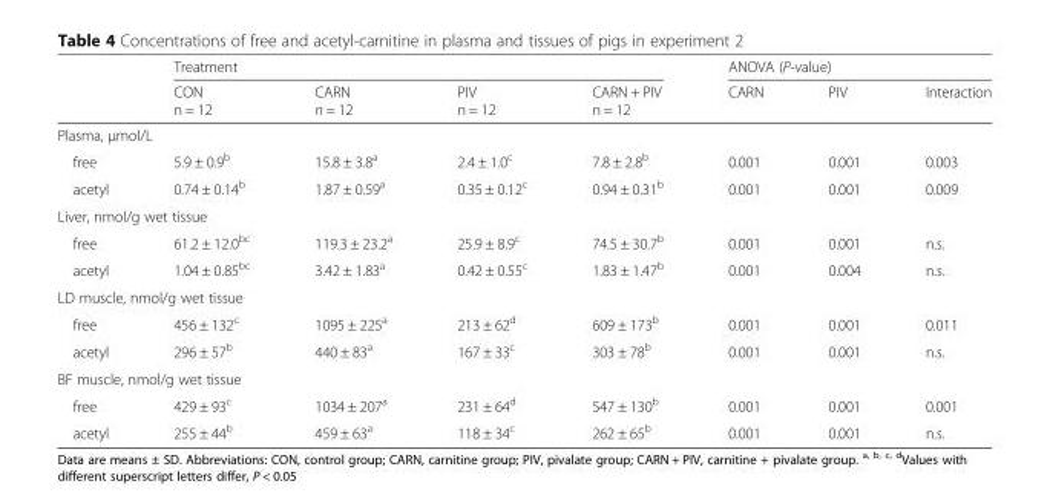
<table><thead><tr><td rowspan="2"></td><td colspan="4">Treatment</td><td colspan="3">ANOVA (P-value)</td></tr><tr><td>CON n = 12</td><td>CARN n = 12</td><td>PIV n = 12</td><td>CARN + PIV n = 12</td><td>CARN</td><td>PIV</td><td>Interaction</td></tr></thead><tbody><tr><td colspan="8">Plasma, μmol/L</td></tr><tr><td>free</td><td>5.9 ± 0.9<sup>b</sup></td><td>15.8 ± 3.8<sup>a</sup></td><td>2.4 ± 1.0<sup>c</sup></td><td>7.8 ± 2.8<sup>b</sup></td><td>0.001</td><td>0.001</td><td>0.003</td></tr><tr><td>acetyl</td><td>0.74 ± 0.14<sup>b</sup></td><td>1.87 ± 0.59<sup>a</sup></td><td>0.35 ± 0.12<sup>c</sup></td><td>0.94 ± 0.31<sup>b</sup></td><td>0.001</td><td>0.001</td><td>0.009</td></tr><tr><td colspan="8">Liver, nmol/g wet tissue</td></tr><tr><td>free</td><td>61.2 ± 12.0<sup>bc</sup></td><td>119.3 ± 23.2<sup>a</sup></td><td>25.9 ± 8.9<sup>c</sup></td><td>74.5 ± 30.7<sup>b</sup></td><td>0.001</td><td>0.001</td><td>n.s.</td></tr><tr><td>acetyl</td><td>1.04 ± 0.85<sup>bc</sup></td><td>3.42 ± 1.83<sup>a</sup></td><td>0.42 ± 0.55<sup>c</sup></td><td>1.83 ± 1.47<sup>b</sup></td><td>0.001</td><td>0.004</td><td>n.s.</td></tr><tr><td colspan="8">LD muscle, nmol/g wet tissue</td></tr><tr><td>free</td><td>456 ± 132<sup>c</sup></td><td>1095 ± 225<sup>a</sup></td><td>213 ± 62<sup>d</sup></td><td>609 ± 173<sup>b</sup></td><td>0.001</td><td>0.001</td><td>0.011</td></tr><tr><td>acetyl</td><td>296 ± 57<sup>b</sup></td><td>440 ± 83<sup>a</sup></td><td>167 ± 33<sup>c</sup></td><td>303 ± 78<sup>b</sup></td><td>0.001</td><td>0.001</td><td>n.s.</td></tr><tr><td colspan="8">BF muscle, nmol/g wet tissue</td></tr><tr><td>free</td><td>429 ± 93<sup>c</sup></td><td>1034 ± 207<sup>a</sup></td><td>231 ± 64<sup>d</sup></td><td>547 ± 130<sup>b</sup></td><td>0.001</td><td>0.001</td><td>0.001</td></tr><tr><td>acetyl</td><td>255 ± 44<sup>b</sup></td><td>459 ± 63<sup>a</sup></td><td>118 ± 34<sup>c</sup></td><td>262 ± 65<sup>b</sup></td><td>0.001</td><td>0.001</td><td>n.s.</td></tr></tbody></table>